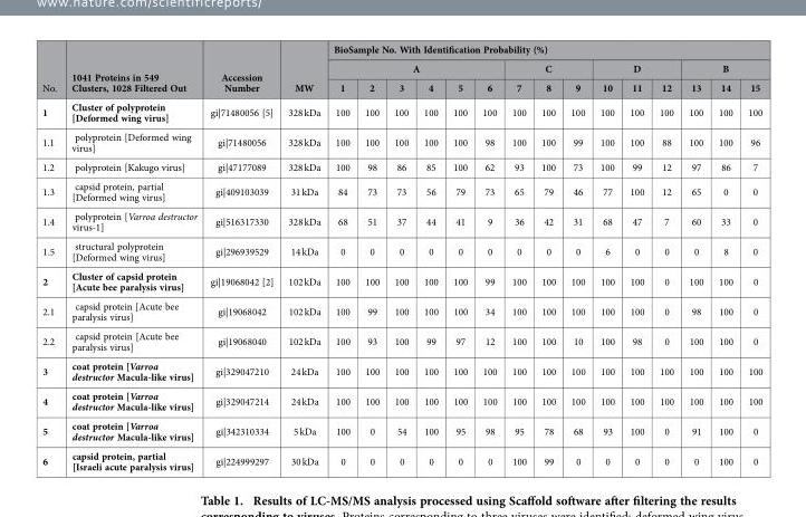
<table><thead><tr><td rowspan="3">No.</td><td rowspan="3">1041 Proteins in 549 Clusters, 1028 Filtered Out</td><td rowspan="3">Accession Number</td><td rowspan="3">MW</td><td colspan="15">BioSample No. With Identification Probability (%)</td></tr><tr><td colspan="6">A</td><td colspan="3">C</td><td colspan="3">D</td><td colspan="3">B</td></tr><tr><td>1</td><td>2</td><td>3</td><td>4</td><td>5</td><td>6</td><td>7</td><td>8</td><td>9</td><td>10</td><td>11</td><td>12</td><td>13</td><td>14</td><td>15</td></tr></thead><tbody><tr><td>1</td><td>Cluster of polyprotein [Deformed wing virus]</td><td>gi|71480056 [5]</td><td>328 kDa</td><td>100</td><td>100</td><td>100</td><td>100</td><td>100</td><td>100</td><td>100</td><td>100</td><td>100</td><td>100</td><td>100</td><td>100</td><td>100</td><td>100</td><td>100</td></tr><tr><td>1.1</td><td>polyprotein [Deformed wing virus]</td><td>gi|71480056</td><td>328 kDa</td><td>100</td><td>100</td><td>100</td><td>100</td><td>100</td><td>98</td><td>100</td><td>100</td><td>99</td><td>100</td><td>100</td><td>88</td><td>100</td><td>100</td><td>96</td></tr><tr><td>1.2</td><td>polyprotein [Kakugo virus]</td><td>gi|47177089</td><td>328 kDa</td><td>100</td><td>98</td><td>86</td><td>85</td><td>100</td><td>62</td><td>93</td><td>100</td><td>73</td><td>100</td><td>99</td><td>12</td><td>97</td><td>86</td><td>7</td></tr><tr><td>1.3</td><td>capsid protein, partial [Deformed wing virus]</td><td>gi|409103039</td><td>31 kDa</td><td>84</td><td>73</td><td>73</td><td>56</td><td>79</td><td>73</td><td>65</td><td>79</td><td>46</td><td>77</td><td>100</td><td>12</td><td>65</td><td>0</td><td>0</td></tr><tr><td>1.4</td><td>polyprotein [Varroa destructor virus-1]</td><td>gi|516317330</td><td>328 kDa</td><td>68</td><td>51</td><td>37</td><td>44</td><td>41</td><td>9</td><td>36</td><td>42</td><td>31</td><td>68</td><td>47</td><td>7</td><td>60</td><td>33</td><td>0</td></tr><tr><td>1.5</td><td>structural polyprotein [Deformed wing virus]</td><td>gi|296939529</td><td>14 kDa</td><td>0</td><td>0</td><td>0</td><td>0</td><td>0</td><td>0</td><td>0</td><td>0</td><td>0</td><td>6</td><td>0</td><td>0</td><td>0</td><td>8</td><td>0</td></tr><tr><td>2</td><td>Cluster of capsid protein [Acute bee paralysis virus]</td><td>gi|19068042 [2]</td><td>102 kDa</td><td>100</td><td>100</td><td>100</td><td>100</td><td>100</td><td>99</td><td>100</td><td>100</td><td>100</td><td>100</td><td>100</td><td>0</td><td>100</td><td>100</td><td>0</td></tr><tr><td>2.1</td><td>capsid protein [Acute bee paralysis virus]</td><td>gi|19068042</td><td>102 kDa</td><td>100</td><td>99</td><td>100</td><td>100</td><td>100</td><td>34</td><td>100</td><td>100</td><td>100</td><td>100</td><td>100</td><td>0</td><td>98</td><td>100</td><td>0</td></tr><tr><td>2.2</td><td>capsid protein [Acute bee paralysis virus]</td><td>gi|19068040</td><td>102 kDa</td><td>100</td><td>93</td><td>100</td><td>99</td><td>97</td><td>12</td><td>100</td><td>100</td><td>10</td><td>100</td><td>98</td><td>0</td><td>100</td><td>100</td><td>0</td></tr><tr><td>3</td><td>coat protein [Varroa destructor Macula-like virus]</td><td>gi|329047210</td><td>24 kDa</td><td>100</td><td>100</td><td>100</td><td>100</td><td>100</td><td>100</td><td>100</td><td>100</td><td>100</td><td>100</td><td>100</td><td>100</td><td>100</td><td>100</td><td>100</td></tr><tr><td>4</td><td>coat protein [Varroa destructor Macula-like virus]</td><td>gi|329047214</td><td>24 kDa</td><td>100</td><td>100</td><td>100</td><td>100</td><td>100</td><td>100</td><td>100</td><td>100</td><td>100</td><td>100</td><td>100</td><td>100</td><td>100</td><td>100</td><td>100</td></tr><tr><td>5</td><td>coat protein [Varroa destructor Macula-like virus]</td><td>gi|342310334</td><td>5 kDa</td><td>100</td><td>0</td><td>54</td><td>100</td><td>95</td><td>98</td><td>95</td><td>78</td><td>68</td><td>93</td><td>100</td><td>0</td><td>91</td><td>100</td><td>0</td></tr><tr><td>6</td><td>capsid protein, partial [Israeli acute paralysis virus]</td><td>gi|224999297</td><td>30 kDa</td><td>0</td><td>0</td><td>0</td><td>0</td><td>0</td><td>0</td><td>100</td><td>99</td><td>0</td><td>0</td><td>0</td><td>0</td><td>0</td><td>100</td><td>0</td></tr></tbody></table>